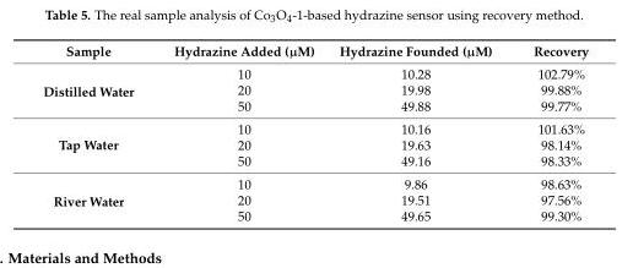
<table><thead><tr><td>Sample</td><td>Hydrazine Added (µM)</td><td>Hydrazine Founded (µM)</td><td>Recovery</td></tr></thead><tbody><tr><td rowspan="3">Distilled Water</td><td>10</td><td>10.28</td><td>102.79%</td></tr><tr><td>20</td><td>19.98</td><td>99.88%</td></tr><tr><td>50</td><td>49.88</td><td>99.77%</td></tr><tr><td rowspan="3">Tap Water</td><td>10</td><td>10.16</td><td>101.63%</td></tr><tr><td>20</td><td>19.63</td><td>98.14%</td></tr><tr><td>50</td><td>49.16</td><td>98.33%</td></tr><tr><td rowspan="3">River Water</td><td>10</td><td>9.86</td><td>98.63%</td></tr><tr><td>20</td><td>19.51</td><td>97.56%</td></tr><tr><td>50</td><td>49.65</td><td>99.30%</td></tr></tbody></table>